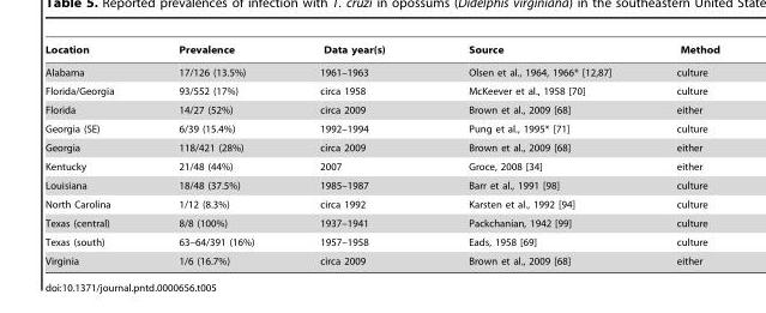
<table><thead><tr><td>Location</td><td>Prevalence</td><td>Data year(s)</td><td>Source</td><td>Method</td></tr></thead><tbody><tr><td>Alabama</td><td>17/126 (13.5%)</td><td>1961–1963</td><td>Olsen et al., 1964, 1966* [12,87]</td><td>culture</td></tr><tr><td>Florida/Georgia</td><td>93/552 (17%)</td><td>circa 1958</td><td>McKeever et al., 1958 [70]</td><td>culture</td></tr><tr><td>Florida</td><td>14/27 (52%)</td><td>circa 2009</td><td>Brown et al., 2009 [68]</td><td>either</td></tr><tr><td>Georgia (SE)</td><td>6/39 (15.4%)</td><td>1992–1994</td><td>Pung et al., 1995* [71]</td><td>culture</td></tr><tr><td>Georgia</td><td>118/421 (28%)</td><td>circa 2009</td><td>Brown et al., 2009 [68]</td><td>either</td></tr><tr><td>Kentucky</td><td>21/48 (44%)</td><td>2007</td><td>Groce, 2008 [34]</td><td>either</td></tr><tr><td>Louisiana</td><td>18/48 (37.5%)</td><td>1985–1987</td><td>Barr et al., 1991 [98]</td><td>culture</td></tr><tr><td>North Carolina</td><td>1/12 (8.3%)</td><td>circa 1992</td><td>Karsten et al., 1992 [94]</td><td>culture</td></tr><tr><td>Texas (central)</td><td>8/8 (100%)</td><td>1937–1941</td><td>Packchanian, 1942 [99]</td><td>culture</td></tr><tr><td>Texas (south)</td><td>63–64/391 (16%)</td><td>1957–1958</td><td>Eads, 1958 [69]</td><td>culture</td></tr><tr><td>Virginia</td><td>1/6 (16.7%)</td><td>circa 2009</td><td>Brown et al., 2009 [68]</td><td>either</td></tr></tbody></table>